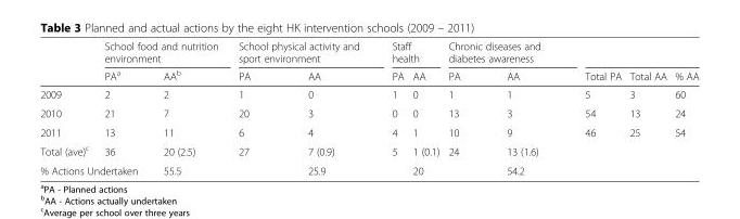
<table><thead><tr><td rowspan="2"></td><td colspan="2">School food and nutrition environment</td><td colspan="2">School physical activity and sport environment</td><td colspan="2">Staff health</td><td colspan="2">Chronic diseases and diabetes awareness</td><td rowspan="2">Total PA</td><td rowspan="2">Total AA</td><td rowspan="2">% AA</td></tr><tr><td>PA<sup>a</sup></td><td>AA<sup>b</sup></td><td>PA</td><td>AA</td><td>PA</td><td>AA</td><td>PA</td><td>AA</td></tr></thead><tbody><tr><td>2009</td><td>2</td><td>2</td><td>1</td><td>0</td><td>1</td><td>0</td><td>1</td><td>1</td><td>5</td><td>3</td><td>60</td></tr><tr><td>2010</td><td>21</td><td>7</td><td>20</td><td>3</td><td>0</td><td>0</td><td>13</td><td>3</td><td>54</td><td>13</td><td>24</td></tr><tr><td>2011</td><td>13</td><td>11</td><td>6</td><td>4</td><td>4</td><td>1</td><td>10</td><td>9</td><td>46</td><td>25</td><td>54</td></tr><tr><td>Total (ave)<sup>c</sup></td><td>36</td><td>20 (2.5)</td><td>27</td><td>7 (0.9)</td><td>5</td><td>1 (0.1)</td><td>24</td><td>13 (1.6)</td><td rowspan="2" colspan="3"></td></tr><tr><td colspan="2">% Actions Undertaken</td><td>55.5</td><td></td><td>25.9</td><td></td><td>20</td><td></td><td>54.2</td></tr></tbody></table>